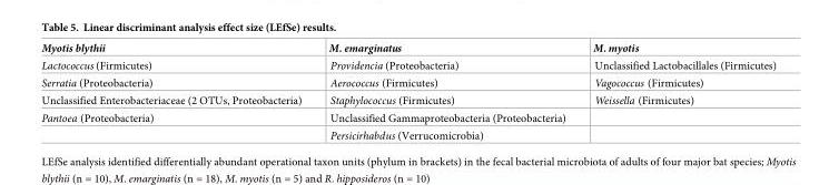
<table><thead><tr><td>Myotis blythii</td><td>M. emarginatus</td><td>M. myotis</td></tr></thead><tbody><tr><td>Lactococcus (Firmicutes)</td><td>Providencia (Proteobacteria)</td><td>Unclassified Lactobacillales (Firmicutes)</td></tr><tr><td>Serratia (Proteobacteria)</td><td>Aerococcus (Firmicutes)</td><td>Vagococcus (Firmicutes)</td></tr><tr><td>Unclassified Enterobacteriaceae (2 OTUs, Proteobacteria)</td><td>Staphylococcus (Firmicutes)</td><td>Weissella (Firmicutes)</td></tr><tr><td rowspan="2">Pantoea (Proteobacteria)</td><td>Unclassified Gammaproteobacteria (Proteobacteria)</td><td></td></tr><tr><td>Persicirhabdus (Verrucomicrobia)</td><td></td></tr></tbody></table>